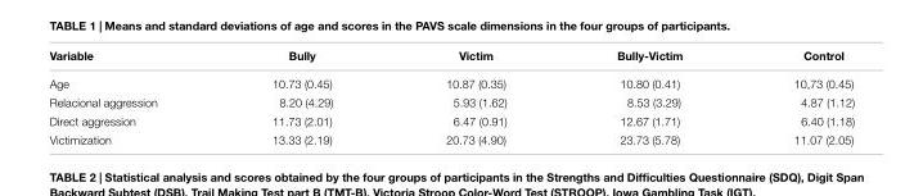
<table><thead><tr><td>Variable</td><td>Bully</td><td>Victim</td><td>Bully-Victim</td><td>Control</td></tr></thead><tbody><tr><td>Age</td><td>10.73 (0.45)</td><td>10.87 (0.35)</td><td>10.80 (0.41)</td><td>10,73 (0.45)</td></tr><tr><td>Relacional aggression</td><td>8.20 (4.29)</td><td>5.93 (1.62)</td><td>8.53 (3.29)</td><td>4.87 (1.12)</td></tr><tr><td>Direct aggression</td><td>11.73 (2.01)</td><td>6.47 (0.91)</td><td>12.67 (1.71)</td><td>6.40 (1.18)</td></tr><tr><td>Victimization</td><td>13.33 (2.19)</td><td>20.73 (4.90)</td><td>23.73 (5.78)</td><td>11.07 (2.05)</td></tr></tbody></table>